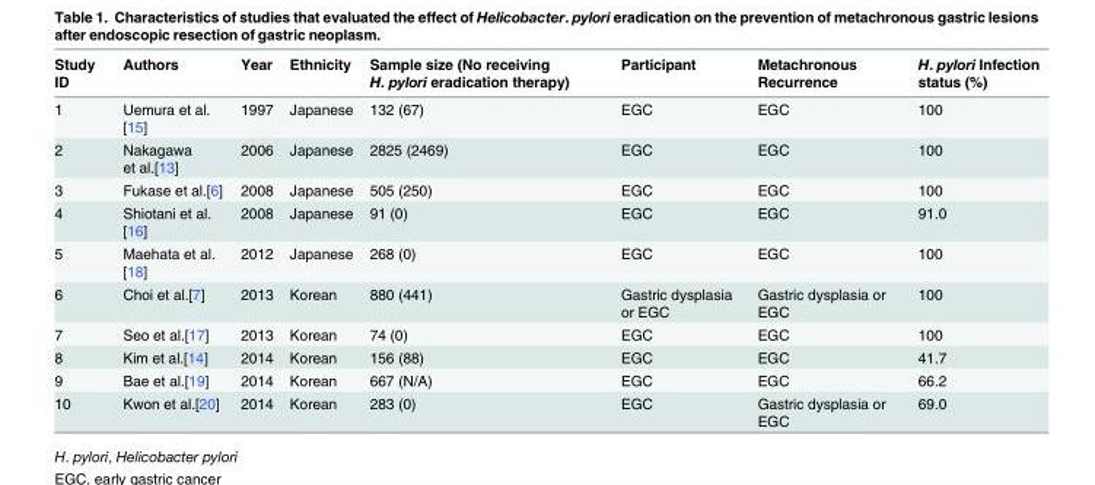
<table><thead><tr><td>Study ID</td><td>Authors</td><td>Year</td><td>Ethnicity</td><td>Sample size (No receiving H. pylori eradication therapy)</td><td>Participant</td><td>Metachronous Recurrence</td><td>H. pylori Infection status (%)</td></tr></thead><tbody><tr><td>1</td><td>Uemura et al. [15]</td><td>1997</td><td>Japanese</td><td>132 (67)</td><td>EGC</td><td>EGC</td><td>100</td></tr><tr><td>2</td><td>Nakagawa et al.[13]</td><td>2006</td><td>Japanese</td><td>2825 (2469)</td><td>EGC</td><td>EGC</td><td>100</td></tr><tr><td>3</td><td>Fukase et al.[6]</td><td>2008</td><td>Japanese</td><td>505 (250)</td><td>EGC</td><td>EGC</td><td>100</td></tr><tr><td>4</td><td>Shiotani et al. [16]</td><td>2008</td><td>Japanese</td><td>91 (0)</td><td>EGC</td><td>EGC</td><td>91.0</td></tr><tr><td>5</td><td>Maehata et al. [18]</td><td>2012</td><td>Japanese</td><td>268 (0)</td><td>EGC</td><td>EGC</td><td>100</td></tr><tr><td>6</td><td>Choi et al.[7]</td><td>2013</td><td>Korean</td><td>880 (441)</td><td>Gastric dysplasia or EGC</td><td>Gastric dysplasia or EGC</td><td>100</td></tr><tr><td>7</td><td>Seo et al.[17]</td><td>2013</td><td>Korean</td><td>74 (0)</td><td>EGC</td><td>EGC</td><td>100</td></tr><tr><td>8</td><td>Kim et al.[14]</td><td>2014</td><td>Korean</td><td>156 (88)</td><td>EGC</td><td>EGC</td><td>41.7</td></tr><tr><td>9</td><td>Bae et al.[19]</td><td>2014</td><td>Korean</td><td>667 (N/A)</td><td>EGC</td><td>EGC</td><td>66.2</td></tr><tr><td>10</td><td>Kwon et al.[20]</td><td>2014</td><td>Korean</td><td>283 (0)</td><td>EGC</td><td>Gastric dysplasia or EGC</td><td>69.0</td></tr></tbody></table>